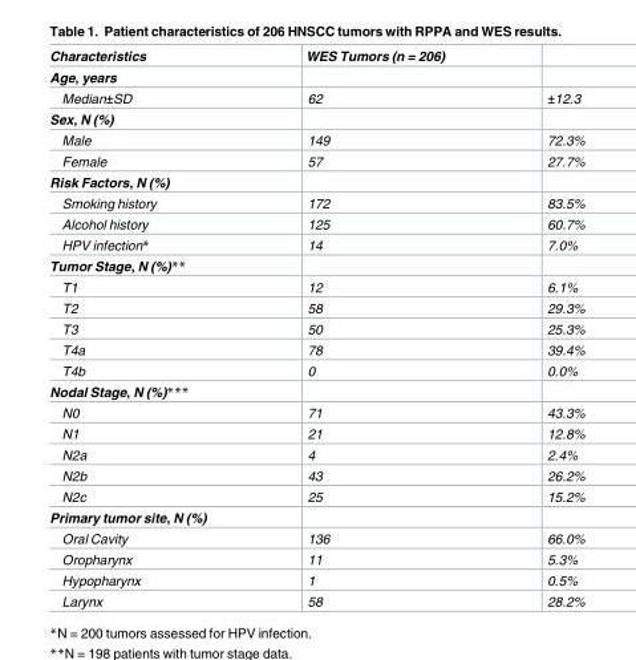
<table><thead><tr><td>Characteristics</td><td>WES Tumors (n = 206)</td><td></td></tr></thead><tbody><tr><td colspan="3">Age, years</td></tr><tr><td>Median±SD</td><td>62</td><td>±12.3</td></tr><tr><td colspan="3">Sex, N (%)</td></tr><tr><td>Male</td><td>149</td><td>72.3%</td></tr><tr><td>Female</td><td>57</td><td>27.7%</td></tr><tr><td colspan="3">Risk Factors, N (%)</td></tr><tr><td>Smoking history</td><td>172</td><td>83.5%</td></tr><tr><td>Alcohol history</td><td>125</td><td>60.7%</td></tr><tr><td>HPV infection*</td><td>14</td><td>7.0%</td></tr><tr><td colspan="3">Tumor Stage, N (%)**</td></tr><tr><td>T1</td><td>12</td><td>6.1%</td></tr><tr><td>T2</td><td>58</td><td>29.3%</td></tr><tr><td>T3</td><td>50</td><td>25.3%</td></tr><tr><td>T4a</td><td>78</td><td>39.4%</td></tr><tr><td>T4b</td><td>0</td><td>0.0%</td></tr><tr><td colspan="3">Nodal Stage, N (%)***</td></tr><tr><td>N0</td><td>71</td><td>43.3%</td></tr><tr><td>N1</td><td>21</td><td>12.8%</td></tr><tr><td>N2a</td><td>4</td><td>2.4%</td></tr><tr><td>N2b</td><td>43</td><td>26.2%</td></tr><tr><td>N2c</td><td>25</td><td>15.2%</td></tr><tr><td colspan="3">Primary tumor site, N (%)</td></tr><tr><td>Oral Cavity</td><td>136</td><td>66.0%</td></tr><tr><td>Oropharynx</td><td>11</td><td>5.3%</td></tr><tr><td>Hypopharynx</td><td>1</td><td>0.5%</td></tr><tr><td>Larynx</td><td>58</td><td>28.2%</td></tr></tbody></table>